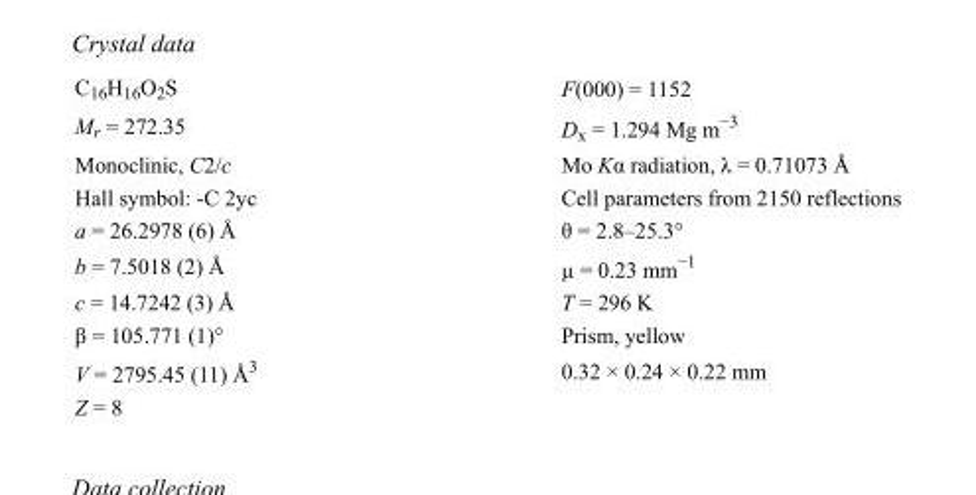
<table><tbody><tr><td>C<sub>16</sub>H<sub>16</sub>O<sub>2</sub>S</td><td>F(000) = 1152</td></tr><tr><td>M<sub>r</sub> = 272.35</td><td>D<sub>x</sub> = 1.294 Mg m<sup>−3</sup></td></tr><tr><td>Monoclinic, C2/c</td><td>Mo Kα radiation, λ = 0.71073 Å</td></tr><tr><td>Hall symbol: -C 2yc</td><td>Cell parameters from 2150 reflections</td></tr><tr><td>a = 26.2978 (6) Å</td><td>θ = 2.8–25.3°</td></tr><tr><td>b = 7.5018 (2) Å</td><td>µ = 0.23 mm<sup>−1</sup></td></tr><tr><td>c = 14.7242 (3) Å</td><td>T = 296 K</td></tr><tr><td>β = 105.771 (1)°</td><td>Prism, yellow</td></tr><tr><td>V = 2795.45 (11) Å<sup>3</sup></td><td>0.32 × 0.24 × 0.22 mm</td></tr><tr><td>Z = 8</td><td></td></tr></tbody></table>